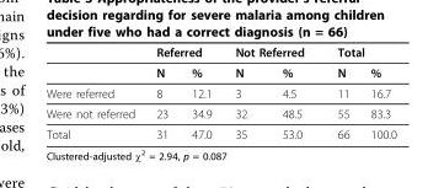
<table><thead><tr><td rowspan="2"></td><td colspan="2">Referred</td><td colspan="2">Not Referred</td><td colspan="2">Total</td></tr><tr><td>N</td><td>%</td><td>N</td><td>%</td><td>N</td><td>%</td></tr></thead><tbody><tr><td>Were referred</td><td>8</td><td>12.1</td><td>3</td><td>4.5</td><td>11</td><td>16.7</td></tr><tr><td>Were not referred</td><td>23</td><td>34.9</td><td>32</td><td>48.5</td><td>55</td><td>83.3</td></tr><tr><td>Total</td><td>31</td><td>47.0</td><td>35</td><td>53.0</td><td>66</td><td>100.0</td></tr></tbody></table>